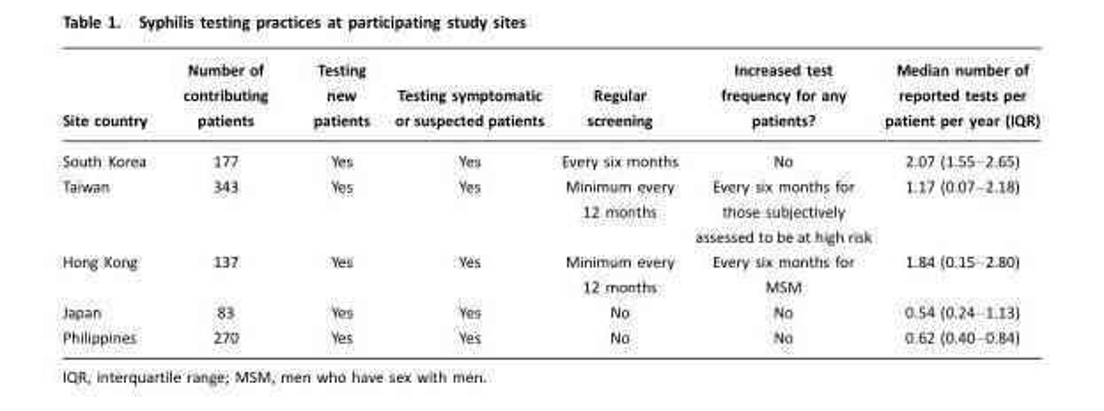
<table><thead><tr><td>Site country</td><td>Number of contributing patients</td><td>Testing new patients</td><td>Testing symptomatic or suspected patients</td><td>Regular screening</td><td>Increased test frequency for any patients?</td><td>Median number of reported tests per patient per year (IQR)</td></tr></thead><tbody><tr><td>South Korea</td><td>177</td><td>Yes</td><td>Yes</td><td>Every six months</td><td>No</td><td>2.07 (1.55–2.65)</td></tr><tr><td>Taiwan</td><td>343</td><td>Yes</td><td>Yes</td><td>Minimum every 12 months</td><td>Every six months for those subjectively assessed to be at high risk</td><td>1.17 (0.07–2.18)</td></tr><tr><td>Hong Kong</td><td>137</td><td>Yes</td><td>Yes</td><td>Minimum every 12 months</td><td>Every six months for MSM</td><td>1.84 (0.15–2.80)</td></tr><tr><td>Japan</td><td>83</td><td>Yes</td><td>Yes</td><td>No</td><td>No</td><td>0.54 (0.24–1.13)</td></tr><tr><td>Philippines</td><td>270</td><td>Yes</td><td>Yes</td><td>No</td><td>No</td><td>0.62 (0.40–0.84)</td></tr></tbody></table>